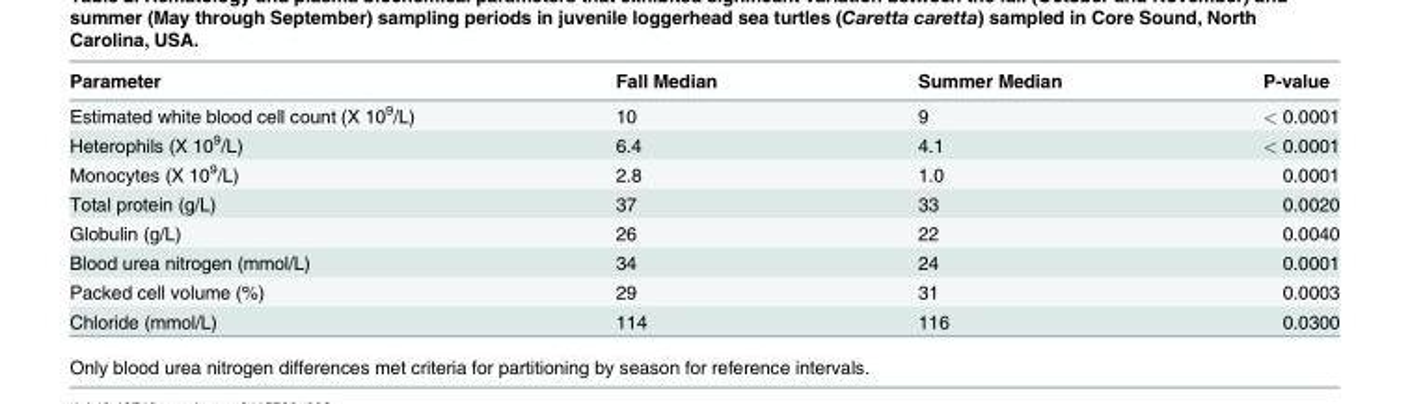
<table><thead><tr><td>Parameter</td><td>Fall Median</td><td>Summer Median</td><td>P-value</td></tr></thead><tbody><tr><td>Estimated white blood cell count (X 10<sup>9</sup>/L)</td><td>10</td><td>9</td><td>&lt; 0.0001</td></tr><tr><td>Heterophils (X 10<sup>9</sup>/L)</td><td>6.4</td><td>4.1</td><td>&lt; 0.0001</td></tr><tr><td>Monocytes (X 10<sup>9</sup>/L)</td><td>2.8</td><td>1.0</td><td>0.0001</td></tr><tr><td>Total protein (g/L)</td><td>37</td><td>33</td><td>0.0020</td></tr><tr><td>Globulin (g/L)</td><td>26</td><td>22</td><td>0.0040</td></tr><tr><td>Blood urea nitrogen (mmol/L)</td><td>34</td><td>24</td><td>0.0001</td></tr><tr><td>Packed cell volume (%)</td><td>29</td><td>31</td><td>0.0003</td></tr><tr><td>Chloride (mmol/L)</td><td>114</td><td>116</td><td>0.0300</td></tr></tbody></table>